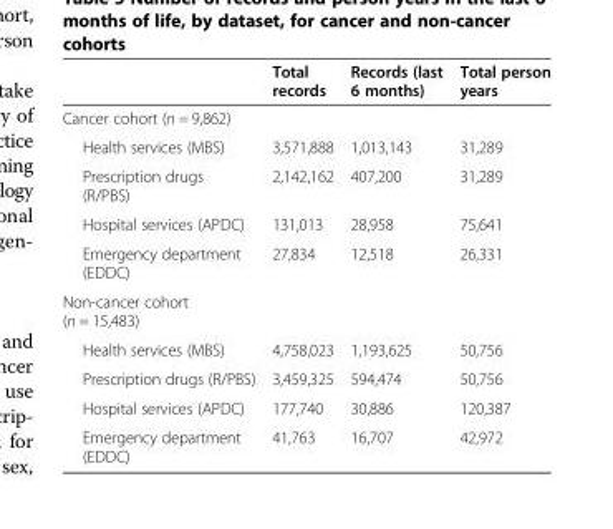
<table><thead><tr><td></td><td>Total records</td><td>Records (last 6 months)</td><td>Total person years</td></tr></thead><tbody><tr><td colspan="4">Cancer cohort (n = 9,862)</td></tr><tr><td>Health services (MBS)</td><td>3,571,888</td><td>1,013,143</td><td>31,289</td></tr><tr><td>Prescription drugs (R/PBS)</td><td>2,142,162</td><td>407,200</td><td>31,289</td></tr><tr><td>Hospital services (APDC)</td><td>131,013</td><td>28,958</td><td>75,641</td></tr><tr><td>Emergency department (EDDC)</td><td>27,834</td><td>12,518</td><td>26,331</td></tr><tr><td colspan="4">Non-cancer cohort (n = 15,483)</td></tr><tr><td>Health services (MBS)</td><td>4,758,023</td><td>1,193,625</td><td>50,756</td></tr><tr><td>Prescription drugs (R/PBS)</td><td>3,459,325</td><td>594,474</td><td>50,756</td></tr><tr><td>Hospital services (APDC)</td><td>177,740</td><td>30,886</td><td>120,387</td></tr><tr><td>Emergency department (EDDC)</td><td>41,763</td><td>16,707</td><td>42,972</td></tr></tbody></table>